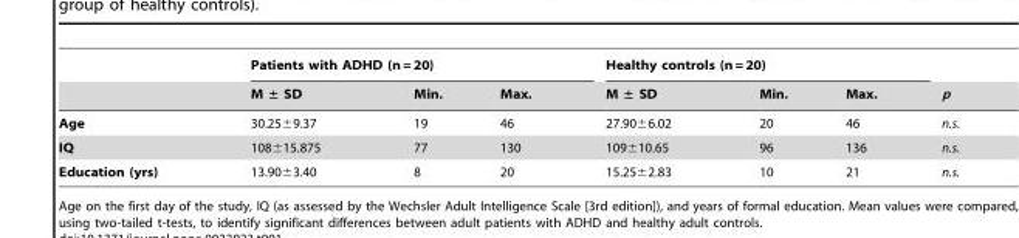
<table><thead><tr><td rowspan="2"></td><td colspan="3">Patients with ADHD (n = 20)</td><td colspan="3">Healthy controls (n = 20)</td><td rowspan="2">p</td></tr><tr><td>M ± SD</td><td>Min.</td><td>Max.</td><td>M ± SD</td><td>Min.</td><td>Max.</td></tr></thead><tbody><tr><td>Age</td><td>30.25±9.37</td><td>19</td><td>46</td><td>27.90±6.02</td><td>20</td><td>46</td><td>n.s.</td></tr><tr><td>IQ</td><td>108±15.875</td><td>77</td><td>130</td><td>109±10.65</td><td>96</td><td>136</td><td>n.s.</td></tr><tr><td>Education (yrs)</td><td>13.90±3.40</td><td>8</td><td>20</td><td>15.25±2.83</td><td>10</td><td>21</td><td>n.s.</td></tr></tbody></table>